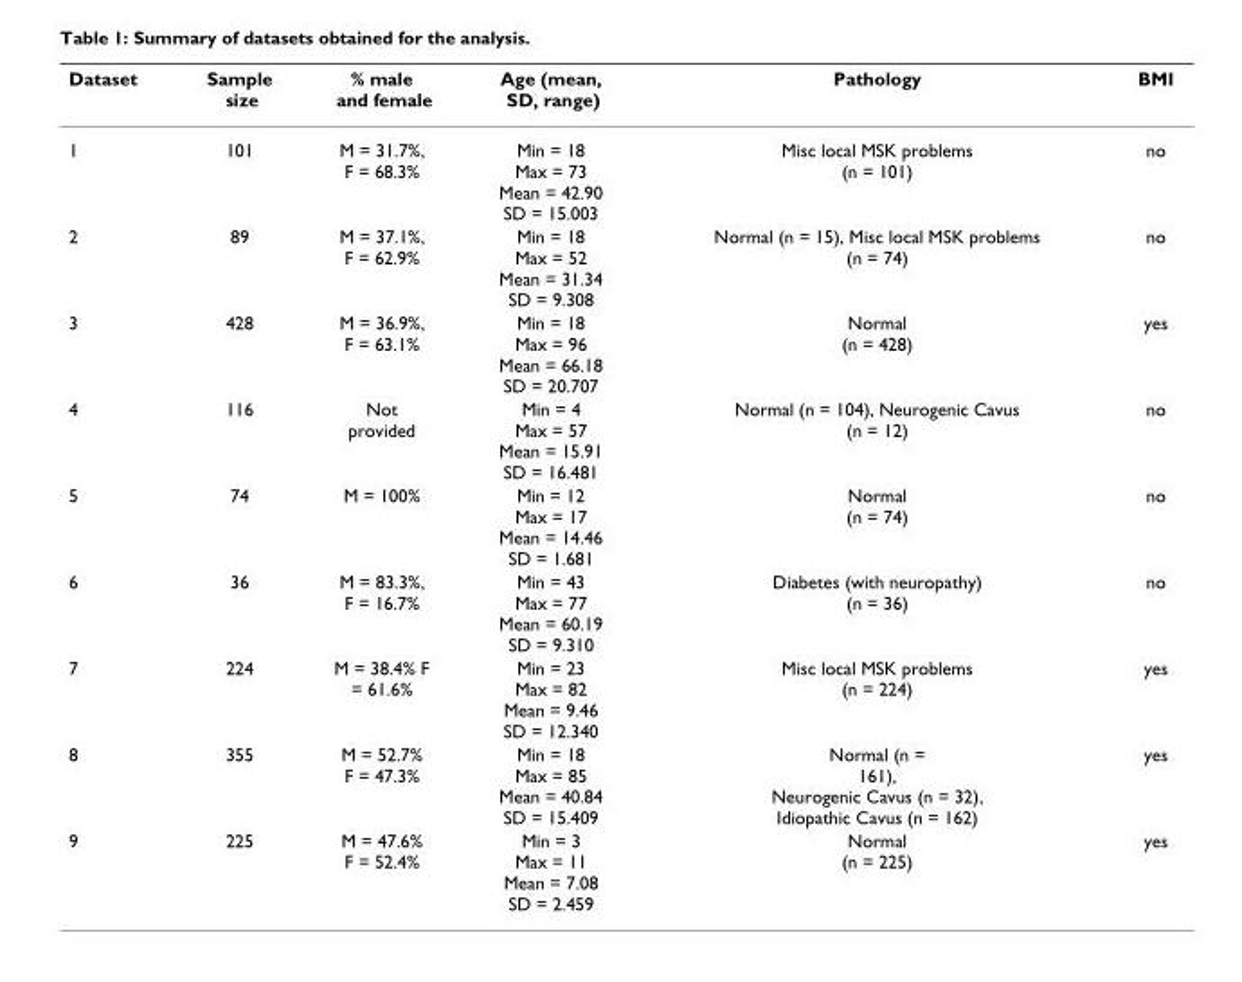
<table><thead><tr><td>Dataset</td><td>Sample size</td><td>% male and female</td><td>Age (mean, SD, range)</td><td>Pathology</td><td>BMI</td></tr></thead><tbody><tr><td>1</td><td>101</td><td>M = 31.7%, F = 68.3%</td><td>Min = 18 Max = 73 Mean = 42.90 SD = 15.003</td><td>Misc local MSK problems (n = 101)</td><td>no</td></tr><tr><td>2</td><td>89</td><td>M = 37.1%, F = 62.9%</td><td>Min = 18 Max = 52 Mean = 31.34 SD = 9.308</td><td>Normal (n = 15), Misc local MSK problems (n = 74)</td><td>no</td></tr><tr><td>3</td><td>428</td><td>M = 36.9%, F = 63.1%</td><td>Min = 18 Max = 96 Mean = 66.18 SD = 20.707</td><td>Normal (n = 428)</td><td>yes</td></tr><tr><td>4</td><td>116</td><td>Not provided</td><td>Min = 4 Max = 57 Mean = 15.91 SD = 16.481</td><td>Normal (n = 104), Neurogenic Cavus (n = 12)</td><td>no</td></tr><tr><td>5</td><td>74</td><td>M = 100%</td><td>Min = 12 Max = 17 Mean = 14.46 SD = 1.681</td><td>Normal (n = 74)</td><td>no</td></tr><tr><td>6</td><td>36</td><td>M = 83.3%, F = 16.7%</td><td>Min = 43 Max = 77 Mean = 60.19 SD = 9.310</td><td>Diabetes (with neuropathy) (n = 36)</td><td>no</td></tr><tr><td>7</td><td>224</td><td>M = 38.4% F = 61.6%</td><td>Min = 23 Max = 82 Mean = 9.46 SD = 12.340</td><td>Misc local MSK problems (n = 224)</td><td>yes</td></tr><tr><td>8</td><td>355</td><td>M = 52.7% F = 47.3%</td><td>Min = 18 Max = 85 Mean = 40.84 SD = 15.409</td><td>Normal (n = 161), Neurogenic Cavus (n = 32), Idiopathic Cavus (n = 162)</td><td>yes</td></tr><tr><td>9</td><td>225</td><td>M = 47.6% F = 52.4%</td><td>Min = 3 Max = 11 Mean = 7.08 SD = 2.459</td><td>Normal (n = 225)</td><td>yes</td></tr></tbody></table>